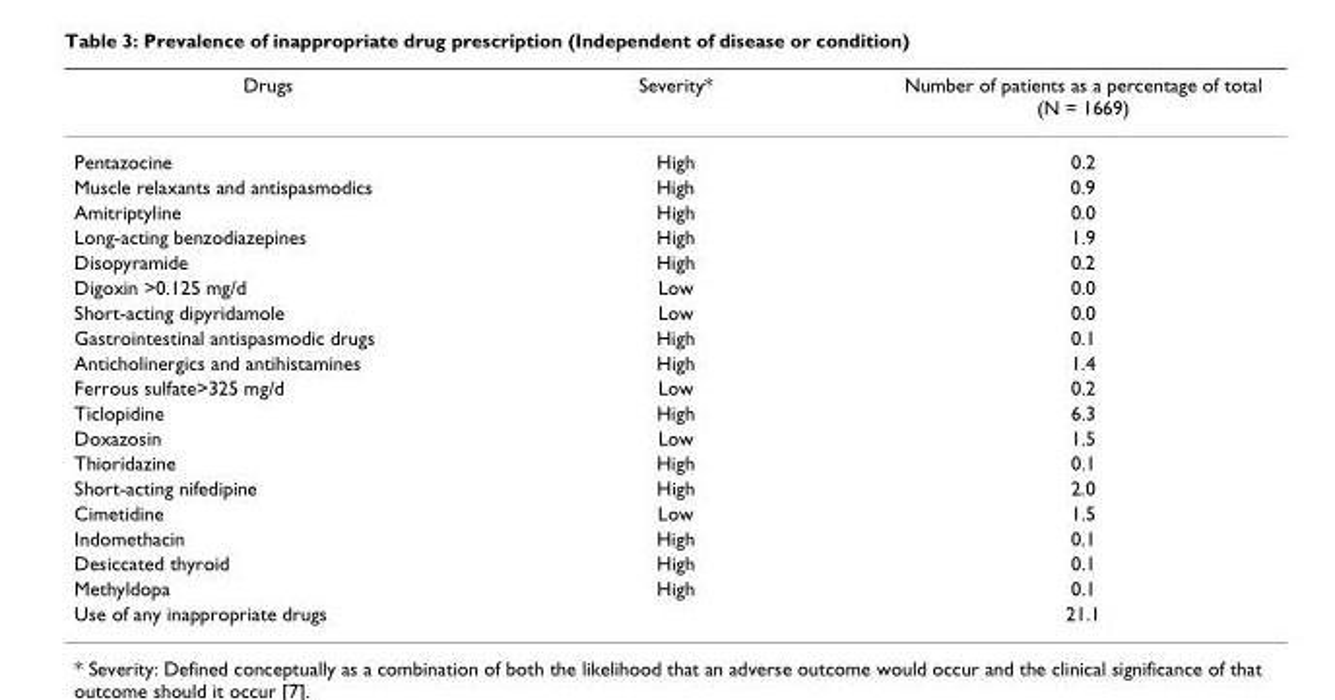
<table><thead><tr><td>Drugs</td><td>Severity*</td><td>Number of patients as a percentage of total (N = 1669)</td></tr></thead><tbody><tr><td>Pentazocine</td><td>High</td><td>0.2</td></tr><tr><td>Muscle relaxants and antispasmodics</td><td>High</td><td>0.9</td></tr><tr><td>Amitriptyline</td><td>High</td><td>0.0</td></tr><tr><td>Long-acting benzodiazepines</td><td>High</td><td>1.9</td></tr><tr><td>Disopyramide</td><td>High</td><td>0.2</td></tr><tr><td>Digoxin &gt;0.125 mg/d</td><td>Low</td><td>0.0</td></tr><tr><td>Short-acting dipyridamole</td><td>Low</td><td>0.0</td></tr><tr><td>Gastrointestinal antispasmodic drugs</td><td>High</td><td>0.1</td></tr><tr><td>Anticholinergics and antihistamines</td><td>High</td><td>1.4</td></tr><tr><td>Ferrous sulfate&gt;325 mg/d</td><td>Low</td><td>0.2</td></tr><tr><td>Ticlopidine</td><td>High</td><td>6.3</td></tr><tr><td>Doxazosin</td><td>Low</td><td>1.5</td></tr><tr><td>Thioridazine</td><td>High</td><td>0.1</td></tr><tr><td>Short-acting nifedipine</td><td>High</td><td>2.0</td></tr><tr><td>Cimetidine</td><td>Low</td><td>1.5</td></tr><tr><td>Indomethacin</td><td>High</td><td>0.1</td></tr><tr><td>Desiccated thyroid</td><td>High</td><td>0.1</td></tr><tr><td>Methyldopa</td><td>High</td><td>0.1</td></tr><tr><td>Use of any inappropriate drugs</td><td></td><td>21.1</td></tr></tbody></table>